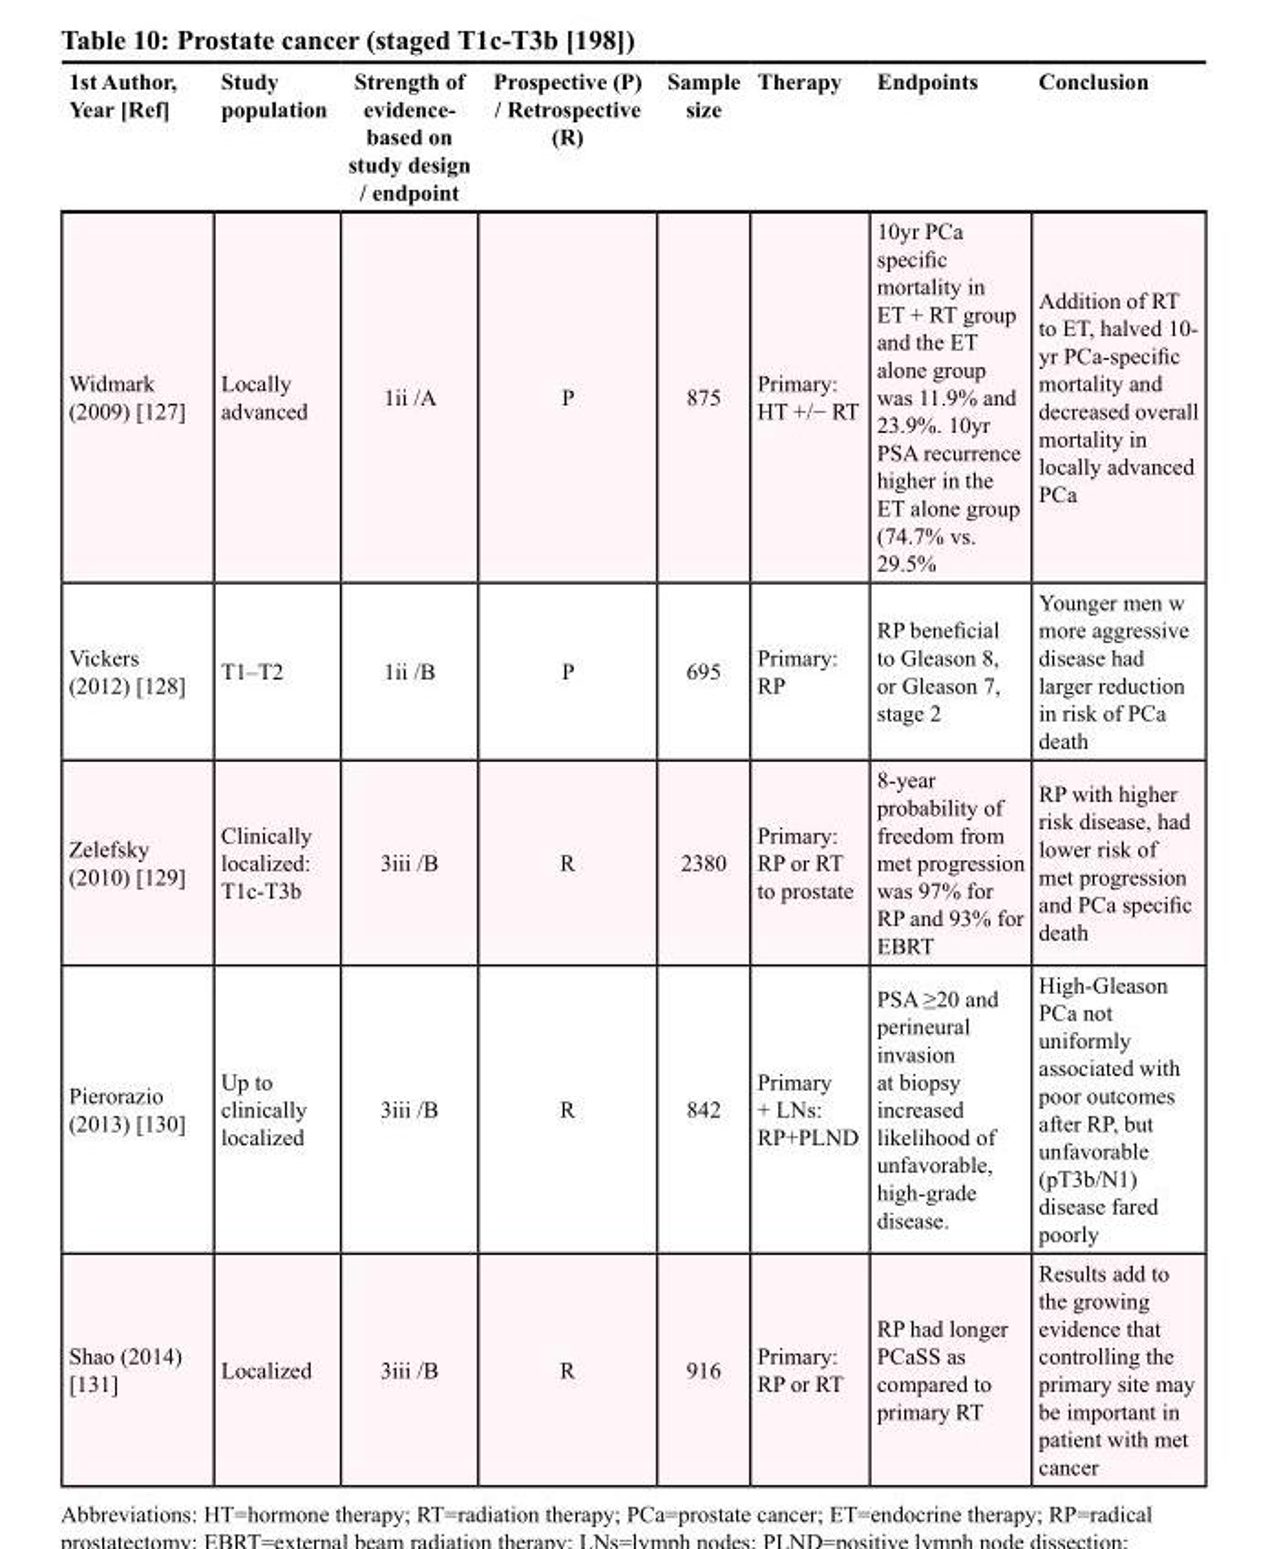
<table><thead><tr><td>1st Author, Year [Ref]</td><td>Study population</td><td>Strength of evidence based on study design / endpoint</td><td>Prospective (P) / Retrospective (R)</td><td>Sample size</td><td>Therapy</td><td>Endpoints</td><td>Conclusion</td></tr></thead><tbody><tr><td>Widmark (2009) [127]</td><td>Locally advanced</td><td>1ii /A</td><td>P</td><td>875</td><td>Primary: HT +/− RT</td><td>10yr PCa specific mortality in ET + RT group and the ET alone group was 11.9% and 23.9%. 10yr PSA recurrence higher in the ET alone group (74.7% vs. 29.5%</td><td>Addition of RT to ET, halved 10- yr PCa-specific mortality and decreased overall mortality in locally advanced PCa</td></tr><tr><td>Vickers (2012) [128]</td><td>T1–T2</td><td>1ii /B</td><td>P</td><td>695</td><td>Primary: RP</td><td>RP beneficial to Gleason 8, or Gleason 7, stage 2</td><td>Younger men w more aggressive disease had larger reduction in risk of PCa death</td></tr><tr><td>Zelefsky (2010) [129]</td><td>Clinically localized: T1c-T3b</td><td>3iii /B</td><td>R</td><td>2380</td><td>Primary: RP or RT to prostate</td><td>8-year probability of freedom from met progression was 97% for RP and 93% for EBRT</td><td>RP with higher risk disease, had lower risk of met progression and PCa specific death</td></tr><tr><td>Pierorazio (2013) [130]</td><td>Up to clinically localized</td><td>3iii /B</td><td>R</td><td>842</td><td>Primary + LNs: RP+PLND</td><td>PSA ≥20 and perineural invasion at biopsy increased likelihood of unfavorable, high-grade disease.</td><td>High-Gleason PCa not uniformly associated with poor outcomes after RP, but unfavorable (pT3b/N1) disease fared poorly</td></tr><tr><td>Shao (2014) [131]</td><td>Localized</td><td>3iii /B</td><td>R</td><td>916</td><td>Primary: RP or RT</td><td>RP had longer PCaSS as compared to primary RT</td><td>Results add to the growing evidence that controlling the primary site may be important in patient with met cancer</td></tr></tbody></table>